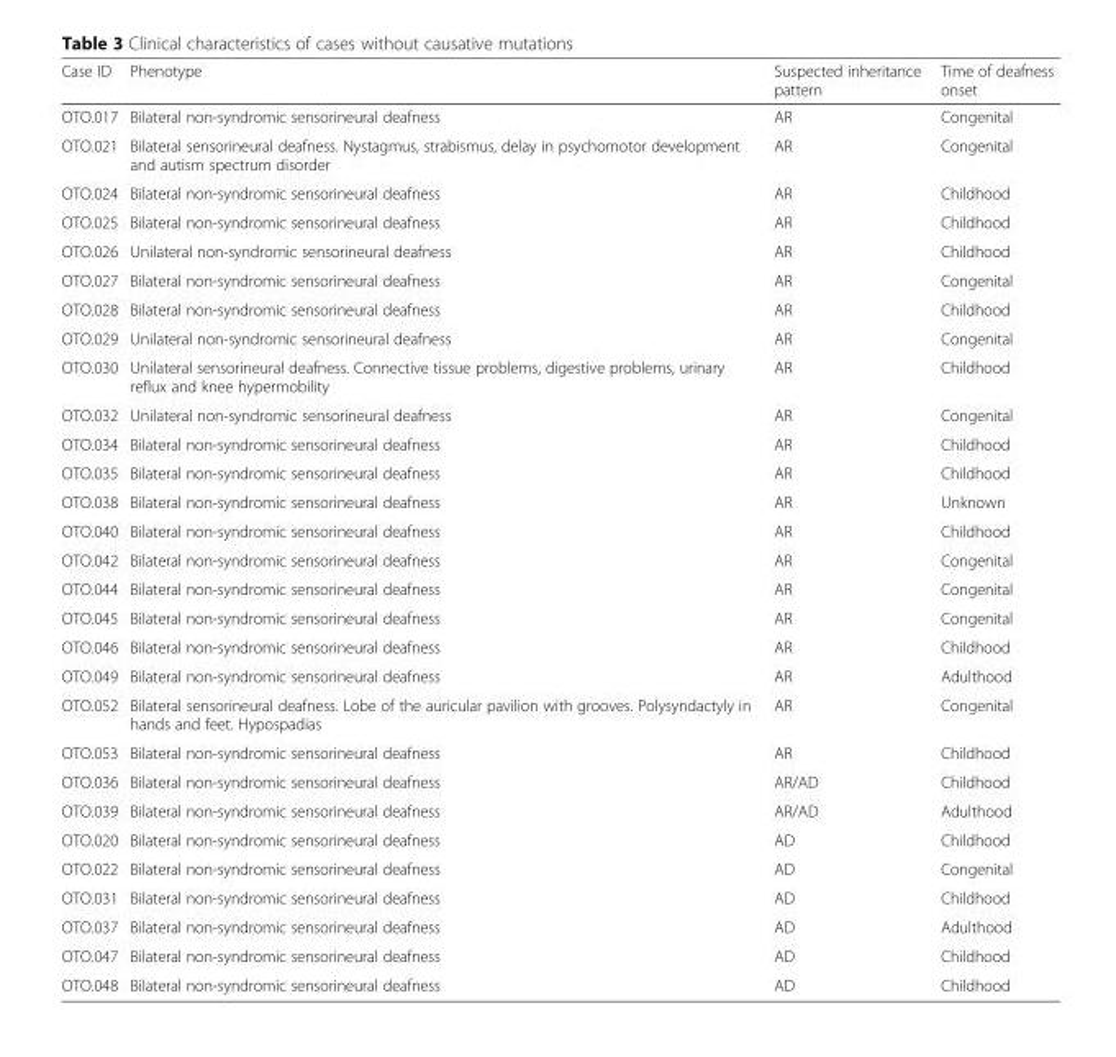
<table><thead><tr><td>Case ID</td><td>Phenotype</td><td>Suspected inheritance pattern</td><td>Time of deafness onset</td></tr></thead><tbody><tr><td>OTO.017</td><td>Bilateral non-syndromic sensorineural deafness</td><td>AR</td><td>Congenital</td></tr><tr><td>OTO.021</td><td>Bilateral sensorineural deafness. Nystagmus, strabismus, delay in psychomotor development and autism spectrum disorder</td><td>AR</td><td>Congenital</td></tr><tr><td>OTO.024</td><td>Bilateral non-syndromic sensorineural deafness</td><td>AR</td><td>Childhood</td></tr><tr><td>OTO.025</td><td>Bilateral non-syndromic sensorineural deafness</td><td>AR</td><td>Childhood</td></tr><tr><td>OTO.026</td><td>Unilateral non-syndromic sensorineural deafness</td><td>AR</td><td>Childhood</td></tr><tr><td>OTO.027</td><td>Bilateral non-syndromic sensorineural deafness</td><td>AR</td><td>Congenital</td></tr><tr><td>OTO.028</td><td>Bilateral non-syndromic sensorineural deafness</td><td>AR</td><td>Childhood</td></tr><tr><td>OTO.029</td><td>Unilateral non-syndromic sensorineural deafness</td><td>AR</td><td>Congenital</td></tr><tr><td>OTO.030</td><td>Unilateral sensorineural deafness. Connective tissue problems, digestive problems, urinary reflux and knee hypermobility</td><td>AR</td><td>Childhood</td></tr><tr><td>OTO.032</td><td>Unilateral non-syndromic sensorineural deafness</td><td>AR</td><td>Congenital</td></tr><tr><td>OTO.034</td><td>Bilateral non-syndromic sensorineural deafness</td><td>AR</td><td>Childhood</td></tr><tr><td>OTO.035</td><td>Bilateral non-syndromic sensorineural deafness</td><td>AR</td><td>Childhood</td></tr><tr><td>OTO.038</td><td>Bilateral non-syndromic sensorineural deafness</td><td>AR</td><td>Unknown</td></tr><tr><td>OTO.040</td><td>Bilateral non-syndromic sensorineural deafness</td><td>AR</td><td>Childhood</td></tr><tr><td>OTO.042</td><td>Bilateral non-syndromic sensorineural deafness</td><td>AR</td><td>Congenital</td></tr><tr><td>OTO.044</td><td>Bilateral non-syndromic sensorineural deafness</td><td>AR</td><td>Congenital</td></tr><tr><td>OTO.045</td><td>Bilateral non-syndromic sensorineural deafness</td><td>AR</td><td>Congenital</td></tr><tr><td>OTO.046</td><td>Bilateral non-syndromic sensorineural deafness</td><td>AR</td><td>Childhood</td></tr><tr><td>OTO.049</td><td>Bilateral non-syndromic sensorineural deafness</td><td>AR</td><td>Adulthood</td></tr><tr><td>OTO.052</td><td>Bilateral sensorineural deafness. Lobe of the auricular pavilion with grooves. Polysyndactyly in hands and feet. Hypospadias</td><td>AR</td><td>Congenital</td></tr><tr><td>OTO.053</td><td>Bilateral non-syndromic sensorineural deafness</td><td>AR</td><td>Childhood</td></tr><tr><td>OTO.036</td><td>Bilateral non-syndromic sensorineural deafness</td><td>AR/AD</td><td>Childhood</td></tr><tr><td>OTO.039</td><td>Bilateral non-syndromic sensorineural deafness</td><td>AR/AD</td><td>Adulthood</td></tr><tr><td>OTO.020</td><td>Bilateral non-syndromic sensorineural deafness</td><td>AD</td><td>Childhood</td></tr><tr><td>OTO.022</td><td>Bilateral non-syndromic sensorineural deafness</td><td>AD</td><td>Congenital</td></tr><tr><td>OTO.031</td><td>Bilateral non-syndromic sensorineural deafness</td><td>AD</td><td>Childhood</td></tr><tr><td>OTO.037</td><td>Bilateral non-syndromic sensorineural deafness</td><td>AD</td><td>Adulthood</td></tr><tr><td>OTO.047</td><td>Bilateral non-syndromic sensorineural deafness</td><td>AD</td><td>Childhood</td></tr><tr><td>OTO.048</td><td>Bilateral non-syndromic sensorineural deafness</td><td>AD</td><td>Childhood</td></tr></tbody></table>